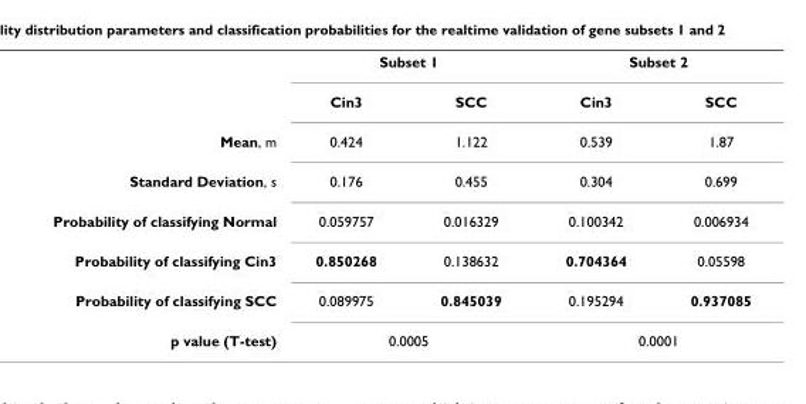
<table><thead><tr><td rowspan="2"></td><td colspan="2">Subset 1</td><td colspan="2">Subset 2</td></tr><tr><td>Cin3</td><td>SCC</td><td>Cin3</td><td>SCC</td></tr></thead><tbody><tr><td>Mean, m</td><td>0.424</td><td>1.122</td><td>0.539</td><td>1.87</td></tr><tr><td>Standard Deviation, s</td><td>0.176</td><td>0.455</td><td>0.304</td><td>0.699</td></tr><tr><td>Probability of classifying Normal</td><td>0.059757</td><td>0.016329</td><td>0.100342</td><td>0.006934</td></tr><tr><td>Probability of classifying Cin3</td><td>0.850268</td><td>0.138632</td><td>0.704364</td><td>0.05598</td></tr><tr><td>Probability of classifying SCC</td><td>0.089975</td><td>0.845039</td><td>0.195294</td><td>0.937085</td></tr><tr><td>p value (T-test)</td><td colspan="2">0.0005</td><td colspan="2">0.0001</td></tr></tbody></table>